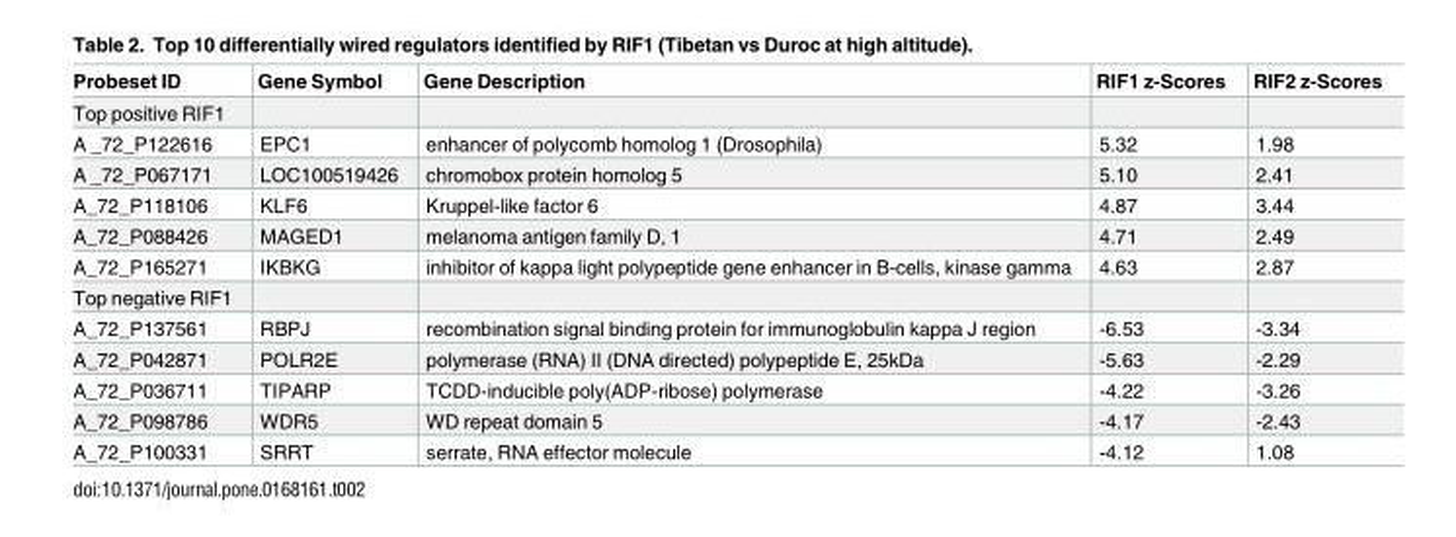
<table><thead><tr><td>Probeset ID</td><td>Gene Symbol</td><td>Gene Description</td><td>RIF1 z-Scores</td><td>RIF2 z-Scores</td></tr></thead><tbody><tr><td colspan="5">Top positive RIF1</td></tr><tr><td>A _72_P122616</td><td>EPC1</td><td>enhancer of polycomb homolog 1 (Drosophila)</td><td>5.32</td><td>1.98</td></tr><tr><td>A _72_P067171</td><td>LOC100519426</td><td>chromobox protein homolog 5</td><td>5.10</td><td>2.41</td></tr><tr><td>A_72_P118106</td><td>KLF6</td><td>Kruppel-like factor 6</td><td>4.87</td><td>3.44</td></tr><tr><td>A_72_P088426</td><td>MAGED1</td><td>melanoma antigen family D, 1</td><td>4.71</td><td>2.49</td></tr><tr><td>A_72_P165271</td><td>IKBKG</td><td>inhibitor of kappa light polypeptide gene enhancer in B-cells, kinase gamma</td><td>4.63</td><td>2.87</td></tr><tr><td colspan="5">Top negative RIF1</td></tr><tr><td>A_72_P137561</td><td>RBPJ</td><td>recombination signal binding protein for immunoglobulin kappa J region</td><td>-6.53</td><td>-3.34</td></tr><tr><td>A_72_P042871</td><td>POLR2E</td><td>polymerase (RNA) II (DNA directed) polypeptide E, 25kDa</td><td>-5.63</td><td>-2.29</td></tr><tr><td>A_72_P036711</td><td>TIPARP</td><td>TCDD-inducible poly(ADP-ribose) polymerase</td><td>-4.22</td><td>-3.26</td></tr><tr><td>A_72_P098786</td><td>WDR5</td><td>WD repeat domain 5</td><td>-4.17</td><td>-2.43</td></tr><tr><td>A_72_P100331</td><td>SRRT</td><td>serrate, RNA effector molecule</td><td>-4.12</td><td>1.08</td></tr></tbody></table>